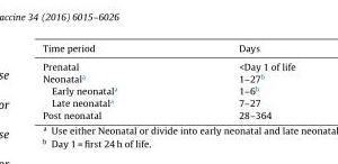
<table><thead><tr><td>Time period</td><td>Days</td></tr></thead><tbody><tr><td>Prenatal</td><td>&lt;Day 1 of life</td></tr><tr><td>Neonatal<sup>a</sup></td><td>1–27<sup>b</sup></td></tr><tr><td>Early neonatal<sup>a</sup></td><td>1–6<sup>b</sup></td></tr><tr><td>Late neonatal<sup>a</sup></td><td>7–27</td></tr><tr><td>Post neonatal</td><td>28–364</td></tr></tbody></table>